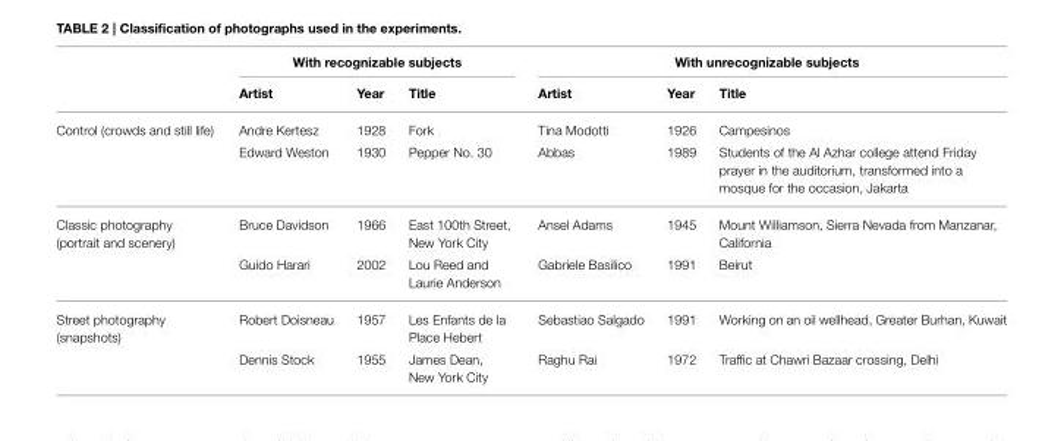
<table><thead><tr><td rowspan="2"></td><td colspan="3">With recognizable subjects</td><td colspan="3">With unrecognizable subjects</td></tr><tr><td>Artist</td><td>Year</td><td>Title</td><td>Artist</td><td>Year</td><td>Title</td></tr></thead><tbody><tr><td rowspan="2">Control (crowds and still life)</td><td>Andre Kertesz</td><td>1928</td><td>Fork</td><td>Tina Modotti</td><td>1926</td><td>Campesinos</td></tr><tr><td>Edward Weston</td><td>1930</td><td>Pepper No. 30</td><td>Abbas</td><td>1989</td><td>Students of the Al Azhar college attend Friday prayer in the auditorium, transformed into a mosque for the occasion, Jakarta</td></tr><tr><td rowspan="2">Classic photography (portrait and scenery)</td><td>Bruce Davidson</td><td>1966</td><td>East 100th Street, New York City</td><td>Ansel Adams</td><td>1945</td><td>Mount Williamson, Sierra Nevada from Manzanar, California</td></tr><tr><td>Guido Harari</td><td>2002</td><td>Lou Reed and Laurie Anderson</td><td>Gabriele Basilico</td><td>1991</td><td>Beirut</td></tr><tr><td rowspan="2">Street photography (snapshots)</td><td>Robert Doisneau</td><td>1957</td><td>Les Enfants de la Place Hebert</td><td>Sebastiao Salgado</td><td>1991</td><td>Working on an oil wellhead, Greater Burhan, Kuwait</td></tr><tr><td>Dennis Stock</td><td>1955</td><td>James Dean, New York City</td><td>Raghu Rai</td><td>1972</td><td>Traffic at Chawri Bazaar crossing, Delhi</td></tr></tbody></table>